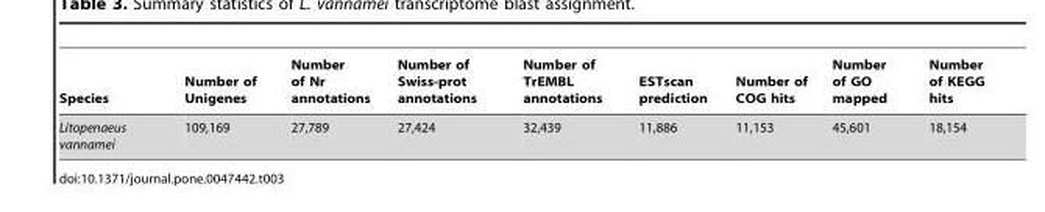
<table><thead><tr><td>Species</td><td>Number of Unigenes</td><td>Number of Nr annotations</td><td>Number of Swiss-prot annotations</td><td>Number of TrEMBL annotations</td><td>ESTscan prediction</td><td>Number of COG hits</td><td>Number of GO mapped</td><td>Number of KEGG hits</td></tr></thead><tbody><tr><td>Litopenaeus vannamei</td><td>109,169</td><td>27,789</td><td>27,424</td><td>32,439</td><td>11,886</td><td>11,153</td><td>45,601</td><td>18,154</td></tr></tbody></table>